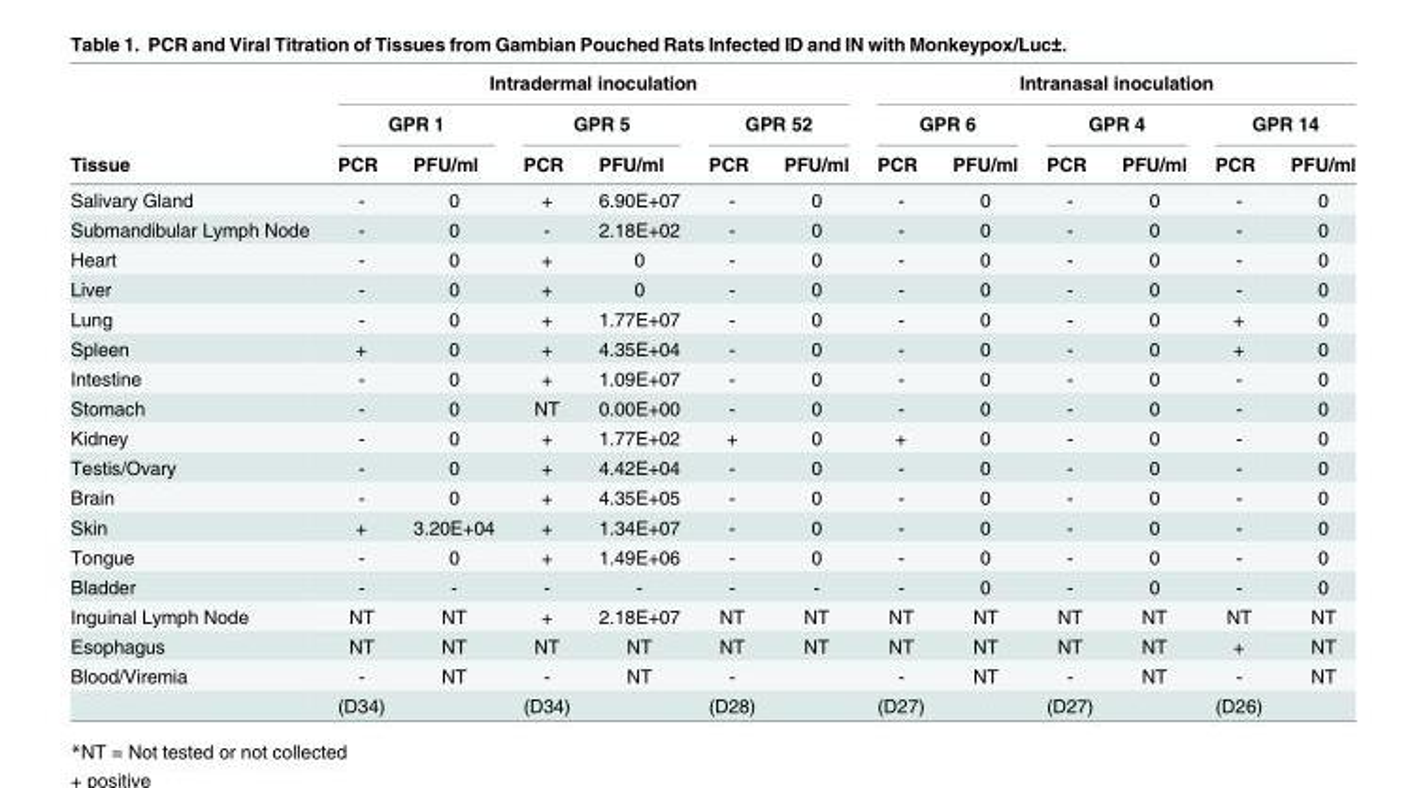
<table><thead><tr><td rowspan="3">Tissue</td><td colspan="6">Intradermal inoculation</td><td colspan="6">Intranasal inoculation</td></tr><tr><td colspan="2">GPR 1</td><td colspan="2">GPR 5</td><td colspan="2">GPR 52</td><td colspan="2">GPR 6</td><td colspan="2">GPR 4</td><td colspan="2">GPR 14</td></tr><tr><td>PCR</td><td>PFU/ml</td><td>PCR</td><td>PFU/ml</td><td>PCR</td><td>PFU/ml</td><td>PCR</td><td>PFU/ml</td><td>PCR</td><td>PFU/ml</td><td>PCR</td><td>PFU/ml</td></tr></thead><tbody><tr><td>Salivary Gland</td><td>-</td><td>0</td><td>+</td><td>6.90E+07</td><td>-</td><td>0</td><td>-</td><td>0</td><td>-</td><td>0</td><td>-</td><td>0</td></tr><tr><td>Submandibular Lymph Node</td><td>-</td><td>0</td><td>-</td><td>2.18E+02</td><td>-</td><td>0</td><td>-</td><td>0</td><td>-</td><td>0</td><td>-</td><td>0</td></tr><tr><td>Heart</td><td>-</td><td>0</td><td>+</td><td>0</td><td>-</td><td>0</td><td>-</td><td>0</td><td>-</td><td>0</td><td>-</td><td>0</td></tr><tr><td>Liver</td><td>-</td><td>0</td><td>+</td><td>0</td><td>-</td><td>0</td><td>-</td><td>0</td><td>-</td><td>0</td><td>-</td><td>0</td></tr><tr><td>Lung</td><td>-</td><td>0</td><td>+</td><td>1.77E+07</td><td>-</td><td>0</td><td>-</td><td>0</td><td>-</td><td>0</td><td>+</td><td>0</td></tr><tr><td>Spleen</td><td>+</td><td>0</td><td>+</td><td>4.35E+04</td><td>-</td><td>0</td><td>-</td><td>0</td><td>-</td><td>0</td><td>+</td><td>0</td></tr><tr><td>Intestine</td><td>-</td><td>0</td><td>+</td><td>1.09E+07</td><td>-</td><td>0</td><td>-</td><td>0</td><td>-</td><td>0</td><td>-</td><td>0</td></tr><tr><td>Stomach</td><td>-</td><td>0</td><td>NT</td><td>0.00E+00</td><td>-</td><td>0</td><td>-</td><td>0</td><td>-</td><td>0</td><td>-</td><td>0</td></tr><tr><td>Kidney</td><td>-</td><td>0</td><td>+</td><td>1.77E+02</td><td>+</td><td>0</td><td>+</td><td>0</td><td>-</td><td>0</td><td>-</td><td>0</td></tr><tr><td>Testis/Ovary</td><td>-</td><td>0</td><td>+</td><td>4.42E+04</td><td>-</td><td>0</td><td>-</td><td>0</td><td>-</td><td>0</td><td>-</td><td>0</td></tr><tr><td>Brain</td><td>-</td><td>0</td><td>+</td><td>4.35E+05</td><td>-</td><td>0</td><td>-</td><td>0</td><td>-</td><td>0</td><td>-</td><td>0</td></tr><tr><td>Skin</td><td>+</td><td>3.20E+04</td><td>+</td><td>1.34E+07</td><td>-</td><td>0</td><td>-</td><td>0</td><td>-</td><td>0</td><td>-</td><td>0</td></tr><tr><td>Tongue</td><td>-</td><td>0</td><td>+</td><td>1.49E+06</td><td>-</td><td>0</td><td>-</td><td>0</td><td>-</td><td>0</td><td>-</td><td>0</td></tr><tr><td>Bladder</td><td>-</td><td>-</td><td>-</td><td>-</td><td>-</td><td>-</td><td>-</td><td>0</td><td>-</td><td>0</td><td>-</td><td>0</td></tr><tr><td>Inguinal Lymph Node</td><td>NT</td><td>NT</td><td>+</td><td>2.18E+07</td><td>NT</td><td>NT</td><td>NT</td><td>NT</td><td>NT</td><td>NT</td><td>NT</td><td>NT</td></tr><tr><td>Esophagus</td><td>NT</td><td>NT</td><td>NT</td><td>NT</td><td>NT</td><td>NT</td><td>NT</td><td>NT</td><td>NT</td><td>NT</td><td>+</td><td>NT</td></tr><tr><td rowspan="2">Blood/Viremia</td><td>-</td><td>NT</td><td>-</td><td>NT</td><td>-</td><td></td><td>-</td><td>NT</td><td>-</td><td>NT</td><td>-</td><td>NT</td></tr><tr><td>(D34)</td><td></td><td>(D34)</td><td></td><td>(D28)</td><td></td><td>(D27)</td><td></td><td>(D27)</td><td></td><td>(D26)</td><td></td></tr></tbody></table>